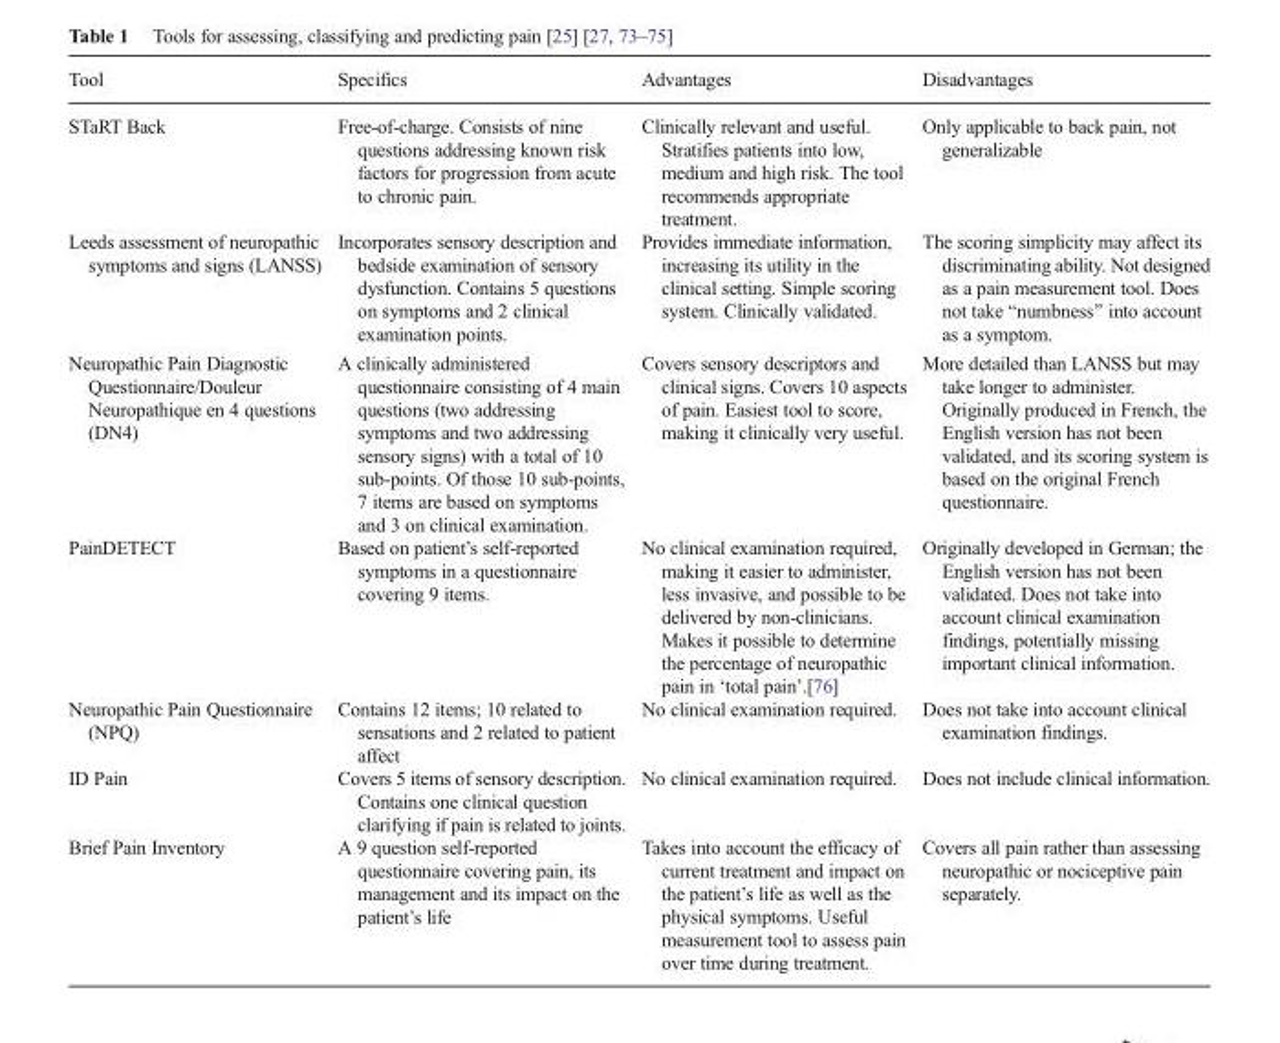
<table><thead><tr><td>Tool</td><td>Specifics</td><td>Advantages</td><td>Disadvantages</td></tr></thead><tbody><tr><td>STaRT Back</td><td>Free-of-charge. Consists of nine questions addressing known risk factors for progression from acute to chronic pain.</td><td>Clinically relevant and useful. Stratifies patients into low, medium and high risk. The tool recommends appropriate treatment.</td><td>Only applicable to back pain, not generalizable</td></tr><tr><td>Leeds assessment of neuropathic symptoms and signs (LANSS)</td><td>Incorporates sensory description and bedside examination of sensory dysfunction. Contains 5 questions on symptoms and 2 clinical examination points.</td><td>Provides immediate information, increasing its utility in the clinical setting. Simple scoring system. Clinically validated.</td><td>The scoring simplicity may affect its discriminating ability. Not designed as a pain measurement tool. Does not take “numbness” into account as a symptom.</td></tr><tr><td>Neuropathic Pain Diagnostic Questionnaire/Douleur Neuropathique en 4 questions (DN4)</td><td>A clinically administered questionnaire consisting of 4 main questions (two addressing symptoms and two addressing sensory signs) with a total of 10 sub-points. Of those 10 sub-points, 7 items are based on symptoms and 3 on clinical examination.</td><td>Covers sensory descriptors and clinical signs. Covers 10 aspects of pain. Easiest tool to score, making it clinically very useful.</td><td>More detailed than LANSS but may take longer to administer. Originally produced in French, the English version has not been validated, and its scoring system is based on the original French questionnaire.</td></tr><tr><td>PainDETECT</td><td>Based on patient’s self-reported symptoms in a questionnaire covering 9 items.</td><td>No clinical examination required, making it easier to administer, less invasive, and possible to be delivered by non-clinicians. Makes it possible to determine the percentage of neuropathic pain in ‘total pain’.[76]</td><td>Originally developed in German; the English version has not been validated. Does not take into account clinical examination findings, potentially missing important clinical information.</td></tr><tr><td>Neuropathic Pain Questionnaire (NPQ)</td><td>Contains 12 items; 10 related to sensations and 2 related to patient affect</td><td>No clinical examination required.</td><td>Does not take into account clinical examination findings.</td></tr><tr><td>ID Pain</td><td>Covers 5 items of sensory description. Contains one clinical question clarifying if pain is related to joints.</td><td>No clinical examination required.</td><td>Does not include clinical information.</td></tr><tr><td>Brief Pain Inventory</td><td>A 9 question self-reported questionnaire covering pain, its management and its impact on the patient’s life</td><td>Takes into account the efficacy of current treatment and impact on the patient’s life as well as the physical symptoms. Useful measurement tool to assess pain over time during treatment.</td><td>Covers all pain rather than assessing neuropathic or nociceptive pain separately.</td></tr></tbody></table>